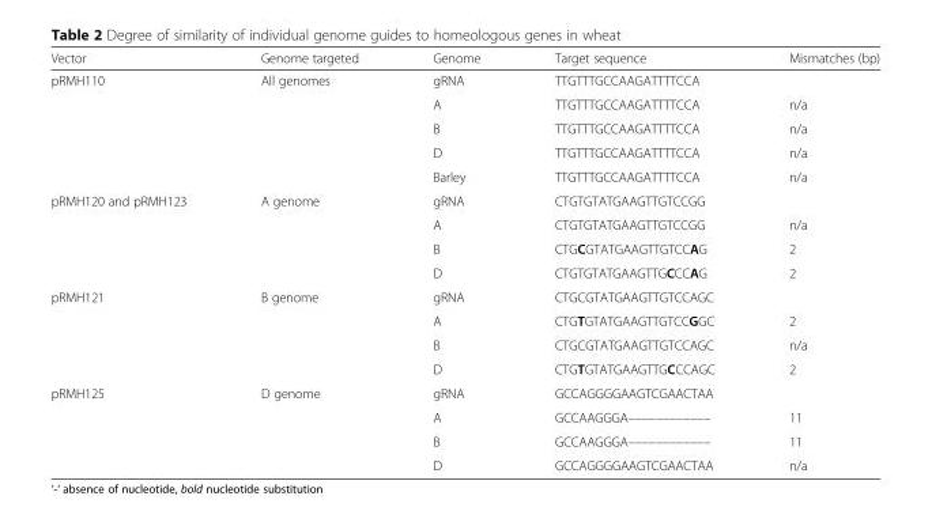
<table><thead><tr><td>Vector</td><td>Genome targeted</td><td>Genome</td><td>Target sequence</td><td>Mismatches (bp)</td></tr></thead><tbody><tr><td rowspan="5">pRMH110</td><td rowspan="5">All genomes</td><td>gRNA</td><td>TTGTTTGCCAAGATTTTCCA</td><td></td></tr><tr><td>A</td><td>TTGTTTGCCAAGATTTTCCA</td><td>n/a</td></tr><tr><td>B</td><td>TTGTTTGCCAAGATTTTCCA</td><td>n/a</td></tr><tr><td>D</td><td>TTGTTTGCCAAGATTTTCCA</td><td>n/a</td></tr><tr><td>Barley</td><td>TTGTTTGCCAAGATTTTCCA</td><td>n/a</td></tr><tr><td rowspan="4">pRMH120 and pRMH123</td><td rowspan="4">A genome</td><td>gRNA</td><td>CTGTGTATGAAGTTGTCCGG</td><td></td></tr><tr><td>A</td><td>CTGTGTATGAAGTTGTCCGG</td><td>n/a</td></tr><tr><td>B</td><td>CTGCGTATGAAGTTGTCCAG</td><td>2</td></tr><tr><td>D</td><td>CTGTGTATGAAGTTGCCCAG</td><td>2</td></tr><tr><td rowspan="4">pRMH121</td><td rowspan="4">B genome</td><td>gRNA</td><td>CTGCGTATGAAGTTGTCCAGC</td><td></td></tr><tr><td>A</td><td>CTGTGTATGAAGTTGTCCGGC</td><td>2</td></tr><tr><td>B</td><td>CTGCGTATGAAGTTGTCCAGC</td><td>n/a</td></tr><tr><td>D</td><td>CTGTGTATGAAGTTGCCCAGC</td><td>2</td></tr><tr><td rowspan="4">pRMH125</td><td rowspan="4">D genome</td><td>gRNA</td><td>GCCAGGGGAAGTCGAACTAA</td><td></td></tr><tr><td>A</td><td>GCCAAGGGA––––––––––––</td><td>11</td></tr><tr><td>B</td><td>GCCAAGGGA––––––––––––</td><td>11</td></tr><tr><td>D</td><td>GCCAGGGGAAGTCGAACTAA</td><td>n/a</td></tr></tbody></table>